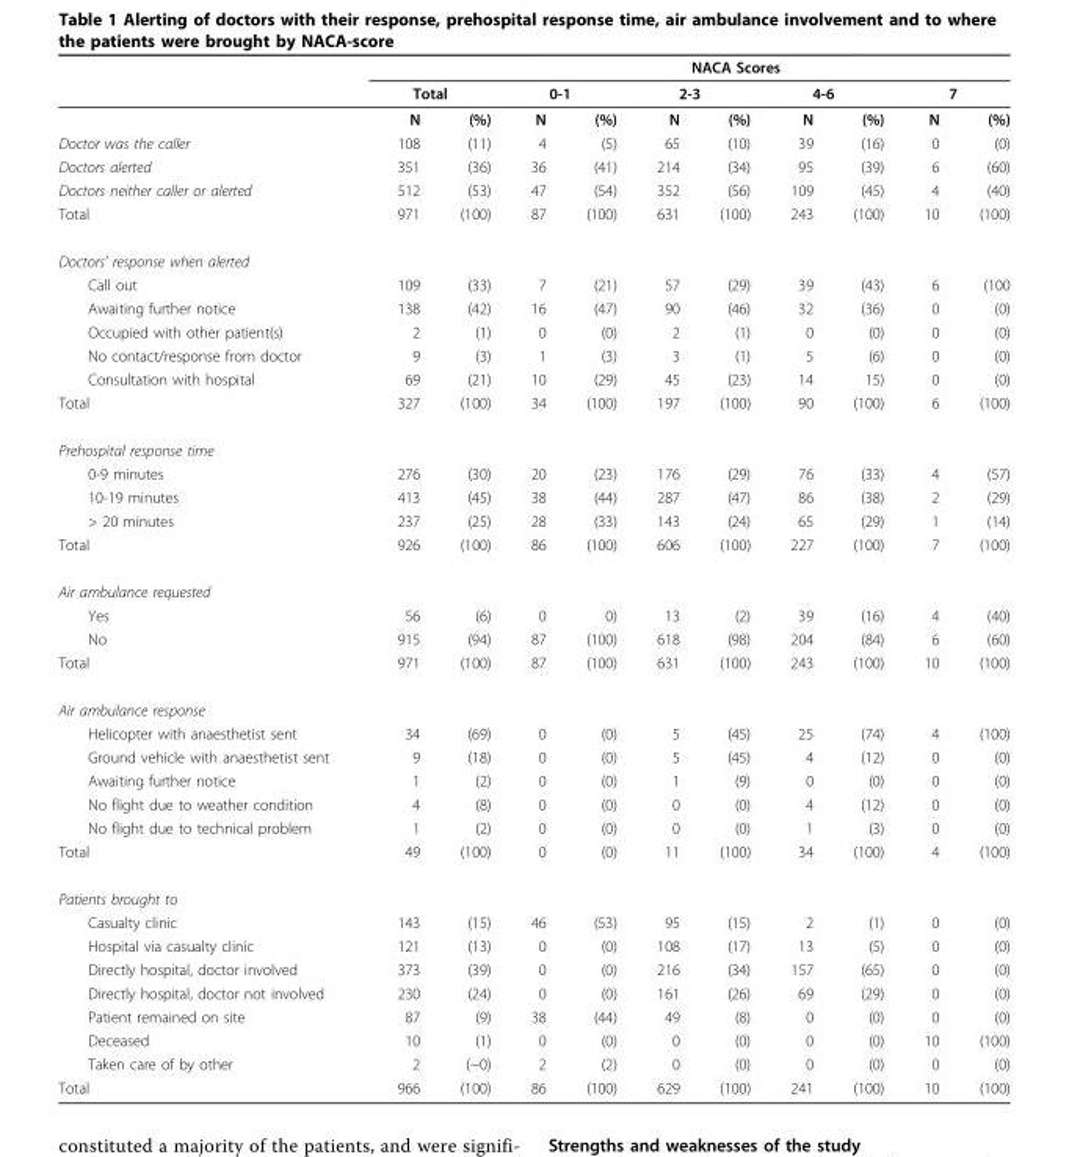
<table><thead><tr><td rowspan="3"></td><td></td><td></td><td></td><td></td><td></td><td colspan="3">NACA Scores</td><td></td><td></td></tr><tr><td colspan="2">Total</td><td colspan="2">0-1</td><td colspan="2">2-3</td><td colspan="2">4-6</td><td colspan="2">7</td></tr><tr><td>N</td><td>(%)</td><td>N</td><td>(%)</td><td>N</td><td>(%)</td><td>N</td><td>(%)</td><td>N</td><td>(%)</td></tr></thead><tbody><tr><td>Doctor was the caller</td><td>108</td><td>(11)</td><td>4</td><td>(5)</td><td>65</td><td>(10)</td><td>39</td><td>(16)</td><td>0</td><td>(0)</td></tr><tr><td>Doctors alerted</td><td>351</td><td>(36)</td><td>36</td><td>(41)</td><td>214</td><td>(34)</td><td>95</td><td>(39)</td><td>6</td><td>(60)</td></tr><tr><td>Doctors neither caller or alerted</td><td>512</td><td>(53)</td><td>47</td><td>(54)</td><td>352</td><td>(56)</td><td>109</td><td>(45)</td><td>4</td><td>(40)</td></tr><tr><td>Total</td><td>971</td><td>(100)</td><td>87</td><td>(100)</td><td>631</td><td>(100)</td><td>243</td><td>(100)</td><td>10</td><td>(100)</td></tr><tr><td colspan="11">Doctors’ response when alerted</td></tr><tr><td>Call out</td><td>109</td><td>(33)</td><td>7</td><td>(21)</td><td>57</td><td>(29)</td><td>39</td><td>(43)</td><td>6</td><td>(100</td></tr><tr><td>Awaiting further notice</td><td>138</td><td>(42)</td><td>16</td><td>(47)</td><td>90</td><td>(46)</td><td>32</td><td>(36)</td><td>0</td><td>(0)</td></tr><tr><td>Occupied with other patient(s)</td><td>2</td><td>(1)</td><td>0</td><td>(0)</td><td>2</td><td>(1)</td><td>0</td><td>(0)</td><td>0</td><td>(0)</td></tr><tr><td>No contact/response from doctor</td><td>9</td><td>(3)</td><td>1</td><td>(3)</td><td>3</td><td>(1)</td><td>5</td><td>(6)</td><td>0</td><td>(0)</td></tr><tr><td>Consultation with hospital</td><td>69</td><td>(21)</td><td>10</td><td>(29)</td><td>45</td><td>(23)</td><td>14</td><td>15)</td><td>0</td><td>(0)</td></tr><tr><td>Total</td><td>327</td><td>(100)</td><td>34</td><td>(100)</td><td>197</td><td>(100)</td><td>90</td><td>(100)</td><td>6</td><td>(100)</td></tr><tr><td colspan="11">Prehospital response time</td></tr><tr><td>0-9 minutes</td><td>276</td><td>(30)</td><td>20</td><td>(23)</td><td>176</td><td>(29)</td><td>76</td><td>(33)</td><td>4</td><td>(57)</td></tr><tr><td>10-19 minutes</td><td>413</td><td>(45)</td><td>38</td><td>(44)</td><td>287</td><td>(47)</td><td>86</td><td>(38)</td><td>2</td><td>(29)</td></tr><tr><td>&gt; 20 minutes</td><td>237</td><td>(25)</td><td>28</td><td>(33)</td><td>143</td><td>(24)</td><td>65</td><td>(29)</td><td>1</td><td>(14)</td></tr><tr><td>Total</td><td>926</td><td>(100)</td><td>86</td><td>(100)</td><td>606</td><td>(100)</td><td>227</td><td>(100)</td><td>7</td><td>(100)</td></tr><tr><td colspan="11">Air ambulance requested</td></tr><tr><td>Yes</td><td>56</td><td>(6)</td><td>0</td><td>0)</td><td>13</td><td>(2)</td><td>39</td><td>(16)</td><td>4</td><td>(40)</td></tr><tr><td>No</td><td>915</td><td>(94)</td><td>87</td><td>(100)</td><td>618</td><td>(98)</td><td>204</td><td>(84)</td><td>6</td><td>(60)</td></tr><tr><td>Total</td><td>971</td><td>(100)</td><td>87</td><td>(100)</td><td>631</td><td>(100)</td><td>243</td><td>(100)</td><td>10</td><td>(100)</td></tr><tr><td colspan="11">Air ambulance response</td></tr><tr><td>Helicopter with anaesthetist sent</td><td>34</td><td>(69)</td><td>0</td><td>(0)</td><td>5</td><td>(45)</td><td>25</td><td>(74)</td><td>4</td><td>(100)</td></tr><tr><td>Ground vehicle with anaesthetist sent</td><td>9</td><td>(18)</td><td>0</td><td>(0)</td><td>5</td><td>(45)</td><td>4</td><td>(12)</td><td>0</td><td>(0)</td></tr><tr><td>Awaiting further notice</td><td>1</td><td>(2)</td><td>0</td><td>(0)</td><td>1</td><td>(9)</td><td>0</td><td>(0)</td><td>0</td><td>(0)</td></tr><tr><td>No flight due to weather condition</td><td>4</td><td>(8)</td><td>0</td><td>(0)</td><td>0</td><td>(0)</td><td>4</td><td>(12)</td><td>0</td><td>(0)</td></tr><tr><td>No flight due to technical problem</td><td>1</td><td>(2)</td><td>0</td><td>(0)</td><td>0</td><td>(0)</td><td>1</td><td>(3)</td><td>0</td><td>(0)</td></tr><tr><td>Total</td><td>49</td><td>(100)</td><td>0</td><td>(0)</td><td>11</td><td>(100)</td><td>34</td><td>(100)</td><td>4</td><td>(100)</td></tr><tr><td colspan="11">Patients brought to</td></tr><tr><td>Casualty clinic</td><td>143</td><td>(15)</td><td>46</td><td>(53)</td><td>95</td><td>(15)</td><td>2</td><td>(1)</td><td>0</td><td>(0)</td></tr><tr><td>Hospital via casualty clinic</td><td>121</td><td>(13)</td><td>0</td><td>(0)</td><td>108</td><td>(17)</td><td>13</td><td>(5)</td><td>0</td><td>(0)</td></tr><tr><td>Directly hospital, doctor involved</td><td>373</td><td>(39)</td><td>0</td><td>(0)</td><td>216</td><td>(34)</td><td>157</td><td>(65)</td><td>0</td><td>(0)</td></tr><tr><td>Directly hospital, doctor not involved</td><td>230</td><td>(24)</td><td>0</td><td>(0)</td><td>161</td><td>(26)</td><td>69</td><td>(29)</td><td>0</td><td>(0)</td></tr><tr><td>Patient remained on site</td><td>87</td><td>(9)</td><td>38</td><td>(44)</td><td>49</td><td>(8)</td><td>0</td><td>(0)</td><td>0</td><td>(0)</td></tr><tr><td>Deceased</td><td>10</td><td>(1)</td><td>0</td><td>(0)</td><td>0</td><td>(0)</td><td>0</td><td>(0)</td><td>10</td><td>(100)</td></tr><tr><td>Taken care of by other</td><td>2</td><td>(~0)</td><td>2</td><td>(2)</td><td>0</td><td>(0)</td><td>0</td><td>(0)</td><td>0</td><td>(0)</td></tr><tr><td>Total</td><td>966</td><td>(100)</td><td>86</td><td>(100)</td><td>629</td><td>(100)</td><td>241</td><td>(100)</td><td>10</td><td>(100)</td></tr></tbody></table>